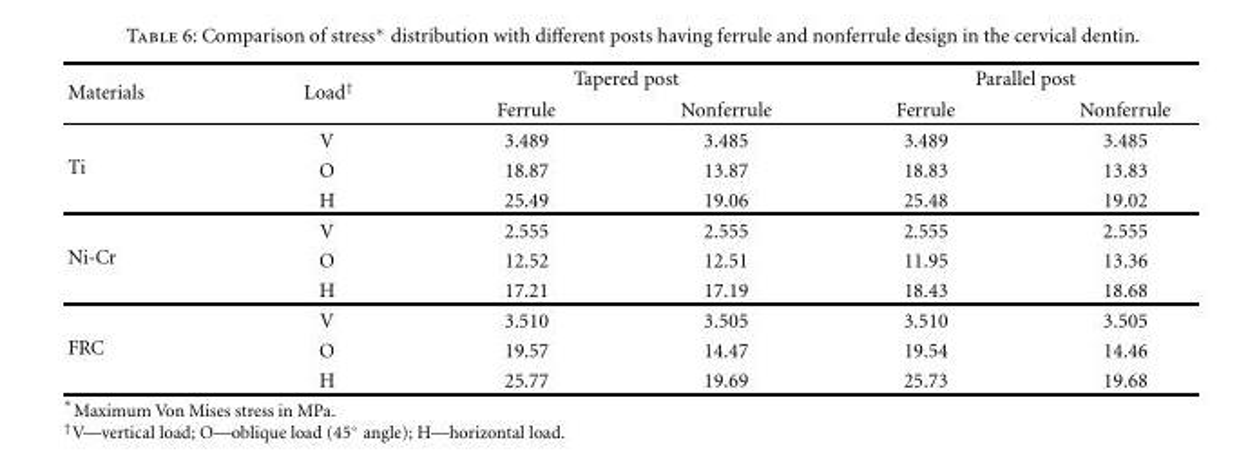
<table><thead><tr><td rowspan="2">Materials</td><td rowspan="2">Load<sup>†</sup></td><td colspan="2">Tapered post</td><td colspan="2">Parallel post</td></tr><tr><td>Ferrule</td><td>Nonferrule</td><td>Ferrule</td><td>Nonferrule</td></tr></thead><tbody><tr><td rowspan="3">Ti</td><td>V</td><td>3.489</td><td>3.485</td><td>3.489</td><td>3.485</td></tr><tr><td>O</td><td>18.87</td><td>13.87</td><td>18.83</td><td>13.83</td></tr><tr><td>H</td><td>25.49</td><td>19.06</td><td>25.48</td><td>19.02</td></tr><tr><td rowspan="3">Ni-Cr</td><td>V</td><td>2.555</td><td>2.555</td><td>2.555</td><td>2.555</td></tr><tr><td>O</td><td>12.52</td><td>12.51</td><td>11.95</td><td>13.36</td></tr><tr><td>H</td><td>17.21</td><td>17.19</td><td>18.43</td><td>18.68</td></tr><tr><td rowspan="3">FRC</td><td>V</td><td>3.510</td><td>3.505</td><td>3.510</td><td>3.505</td></tr><tr><td>O</td><td>19.57</td><td>14.47</td><td>19.54</td><td>14.46</td></tr><tr><td>H</td><td>25.77</td><td>19.69</td><td>25.73</td><td>19.68</td></tr></tbody></table>